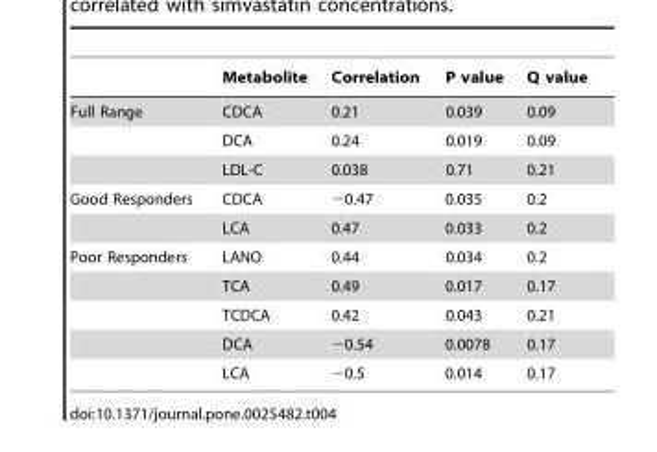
<table><thead><tr><td></td><td>Metabolite</td><td>Correlation</td><td>P value</td><td>Q value</td></tr></thead><tbody><tr><td rowspan="3">Full Range</td><td>CDCA</td><td>0.21</td><td>0.039</td><td>0.09</td></tr><tr><td>DCA</td><td>0.24</td><td>0.019</td><td>0.09</td></tr><tr><td>LDL-C</td><td>0.038</td><td>0.71</td><td>0.21</td></tr><tr><td rowspan="2">Good Responders</td><td>CDCA</td><td>−0.47</td><td>0.035</td><td>0.2</td></tr><tr><td>LCA</td><td>0.47</td><td>0.033</td><td>0.2</td></tr><tr><td rowspan="5">Poor Responders</td><td>LANO</td><td>0.44</td><td>0.034</td><td>0.2</td></tr><tr><td>TCA</td><td>0.49</td><td>0.017</td><td>0.17</td></tr><tr><td>TCDCA</td><td>0.42</td><td>0.043</td><td>0.21</td></tr><tr><td>DCA</td><td>−0.54</td><td>0.0078</td><td>0.17</td></tr><tr><td>LCA</td><td>−0.5</td><td>0.014</td><td>0.17</td></tr></tbody></table>